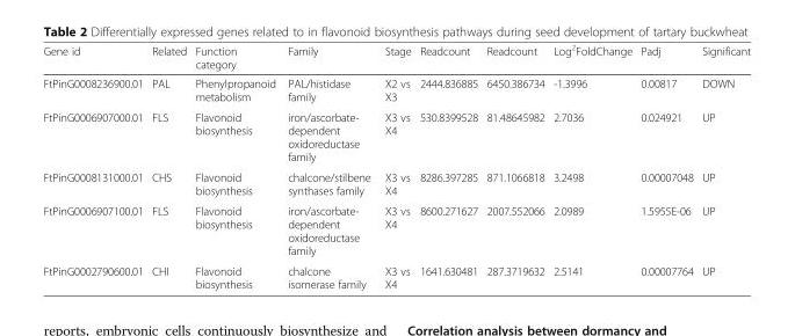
<table><thead><tr><td>Gene id</td><td>Related</td><td>Function category</td><td>Family</td><td>Stage</td><td>Readcount</td><td>Readcount</td><td>Log<sup>2</sup>FoldChange</td><td>Padj</td><td>Significant</td></tr></thead><tbody><tr><td>FtPinG0008236900.01</td><td>PAL</td><td>Phenylpropanoid metabolism</td><td>PAL/histidase family</td><td>X2 vs X3</td><td>2444.836885</td><td>6450.386734</td><td>-1.3996</td><td>0.00817</td><td>DOWN</td></tr><tr><td>FtPinG0006907000.01</td><td>FLS</td><td>Flavonoid biosynthesis</td><td>iron/ascorbate- dependent oxidoreductase family</td><td>X3 vs X4</td><td>530.8399528</td><td>81.48645982</td><td>2.7036</td><td>0.024921</td><td>UP</td></tr><tr><td>FtPinG0008131000.01</td><td>CHS</td><td>Flavonoid biosynthesis</td><td>chalcone/stilbene synthases family</td><td>X3 vs X4</td><td>8286.397285</td><td>871.1066818</td><td>3.2498</td><td>0.00007048</td><td>UP</td></tr><tr><td>FtPinG0006907100.01</td><td>FLS</td><td>Flavonoid biosynthesis</td><td>iron/ascorbate- dependent oxidoreductase family</td><td>X3 vs X4</td><td>8600.271627</td><td>2007.552066</td><td>2.0989</td><td>1.5955E-06</td><td>UP</td></tr><tr><td>FtPinG0002790600.01</td><td>CHI</td><td>Flavonoid biosynthesis</td><td>chalcone isomerase family</td><td>X3 vs X4</td><td>1641.630481</td><td>287.3719632</td><td>2.5141</td><td>0.00007764</td><td>UP</td></tr></tbody></table>